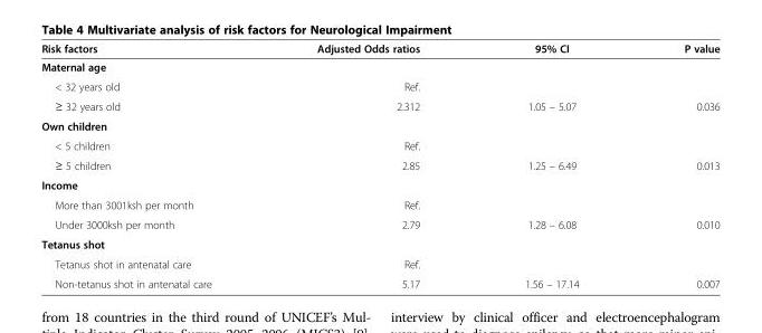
<table><thead><tr><td>Risk factors</td><td>Adjusted Odds ratios</td><td>95% CI</td><td>P value</td></tr></thead><tbody><tr><td colspan="4">Maternal age</td></tr><tr><td>&lt; 32 years old</td><td>Ref.</td><td></td><td></td></tr><tr><td>≥ 32 years old</td><td>2.312</td><td>1.05 – 5.07</td><td>0.036</td></tr><tr><td colspan="4">Own children</td></tr><tr><td>&lt; 5 children</td><td>Ref.</td><td></td><td></td></tr><tr><td>≥ 5 children</td><td>2.85</td><td>1.25 – 6.49</td><td>0.013</td></tr><tr><td colspan="4">Income</td></tr><tr><td>More than 3001ksh per month</td><td>Ref.</td><td></td><td></td></tr><tr><td>Under 3000ksh per month</td><td>2.79</td><td>1.28 – 6.08</td><td>0.010</td></tr><tr><td colspan="4">Tetanus shot</td></tr><tr><td>Tetanus shot in antenatal care</td><td>Ref.</td><td></td><td></td></tr><tr><td>Non-tetanus shot in antenatal care</td><td>5.17</td><td>1.56 – 17.14</td><td>0.007</td></tr></tbody></table>